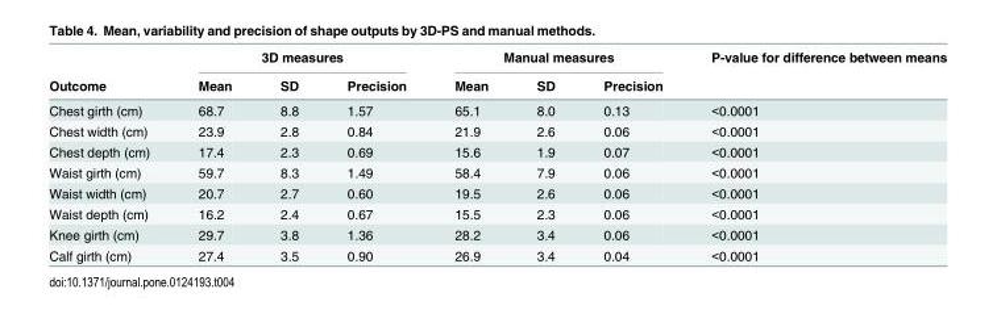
<table><thead><tr><td rowspan="2">Outcome</td><td colspan="3">3D measures</td><td colspan="3">Manual measures</td><td rowspan="2">P-value for difference between means</td></tr><tr><td>Mean</td><td>SD</td><td>Precision</td><td>Mean</td><td>SD</td><td>Precision</td></tr></thead><tbody><tr><td>Chest girth (cm)</td><td>68.7</td><td>8.8</td><td>1.57</td><td>65.1</td><td>8.0</td><td>0.13</td><td>&lt;0.0001</td></tr><tr><td>Chest width (cm)</td><td>23.9</td><td>2.8</td><td>0.84</td><td>21.9</td><td>2.6</td><td>0.06</td><td>&lt;0.0001</td></tr><tr><td>Chest depth (cm)</td><td>17.4</td><td>2.3</td><td>0.69</td><td>15.6</td><td>1.9</td><td>0.07</td><td>&lt;0.0001</td></tr><tr><td>Waist girth (cm)</td><td>59.7</td><td>8.3</td><td>1.49</td><td>58.4</td><td>7.9</td><td>0.06</td><td>&lt;0.0001</td></tr><tr><td>Waist width (cm)</td><td>20.7</td><td>2.7</td><td>0.60</td><td>19.5</td><td>2.6</td><td>0.06</td><td>&lt;0.0001</td></tr><tr><td>Waist depth (cm)</td><td>16.2</td><td>2.4</td><td>0.67</td><td>15.5</td><td>2.3</td><td>0.06</td><td>&lt;0.0001</td></tr><tr><td>Knee girth (cm)</td><td>29.7</td><td>3.8</td><td>1.36</td><td>28.2</td><td>3.4</td><td>0.06</td><td>&lt;0.0001</td></tr><tr><td>Calf girth (cm)</td><td>27.4</td><td>3.5</td><td>0.90</td><td>26.9</td><td>3.4</td><td>0.04</td><td>&lt;0.0001</td></tr></tbody></table>